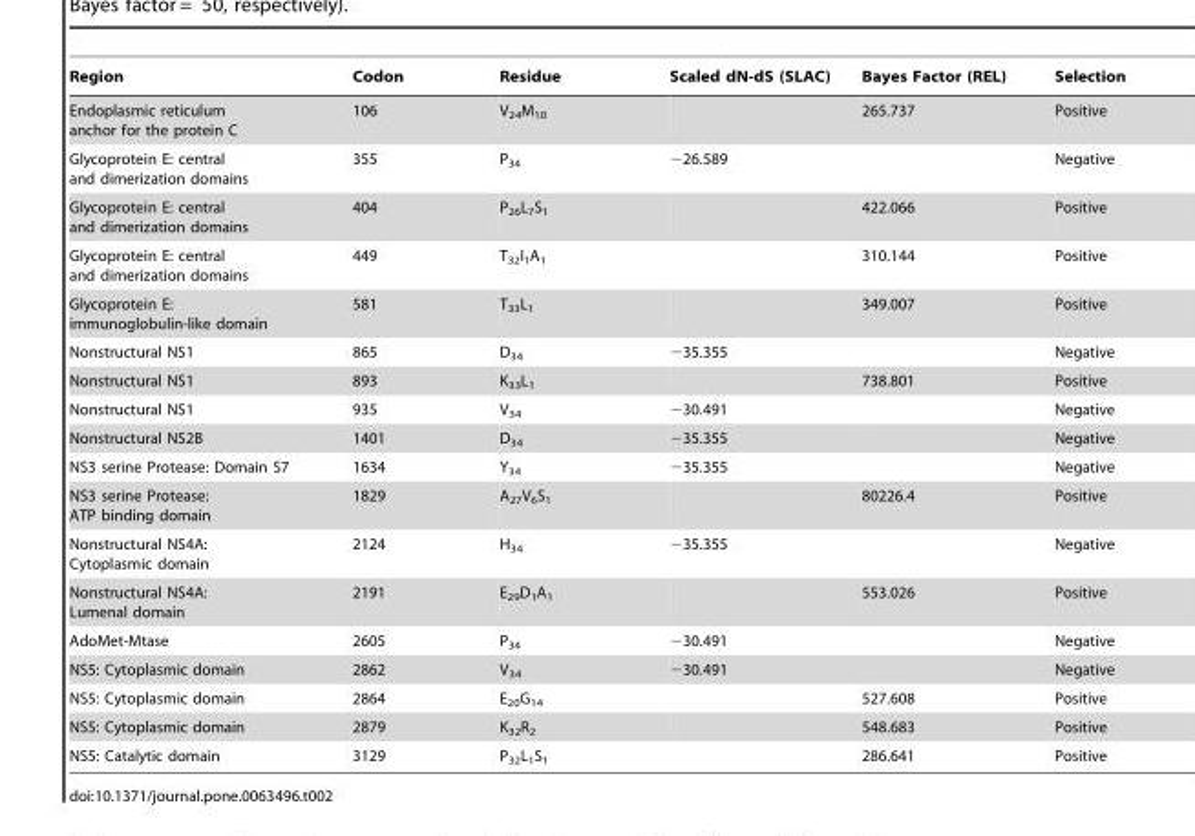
<table><thead><tr><td>Region</td><td>Codon</td><td>Residue</td><td>Scaled dN-dS (SLAC)</td><td>Bayes Factor (REL)</td><td>Selection</td></tr></thead><tbody><tr><td>Endoplasmic reticulum anchor for the protein C</td><td>106</td><td>V<sub>24</sub>M<sub>10</sub></td><td></td><td>265.737</td><td>Positive</td></tr><tr><td>Glycoprotein E: central and dimerization domains</td><td>355</td><td>P<sub>34</sub></td><td>−26.589</td><td></td><td>Negative</td></tr><tr><td>Glycoprotein E: central and dimerization domains</td><td>404</td><td>P<sub>26</sub>L<sub>7</sub>S<sub>1</sub></td><td></td><td>422.066</td><td>Positive</td></tr><tr><td>Glycoprotein E: central and dimerization domains</td><td>449</td><td>T<sub>32</sub>I<sub>1</sub>A<sub>1</sub></td><td></td><td>310.144</td><td>Positive</td></tr><tr><td>Glycoprotein E: immunoglobulin-like domain</td><td>581</td><td>T<sub>33</sub>L<sub>1</sub></td><td></td><td>349.007</td><td>Positive</td></tr><tr><td>Nonstructural NS1</td><td>865</td><td>D<sub>34</sub></td><td>−35.355</td><td></td><td>Negative</td></tr><tr><td>Nonstructural NS1</td><td>893</td><td>K<sub>33</sub>L<sub>1</sub></td><td></td><td>738.801</td><td>Positive</td></tr><tr><td>Nonstructural NS1</td><td>935</td><td>V<sub>34</sub></td><td>−30.491</td><td></td><td>Negative</td></tr><tr><td>Nonstructural NS2B</td><td>1401</td><td>D<sub>34</sub></td><td>−35.355</td><td></td><td>Negative</td></tr><tr><td>NS3 serine Protease: Domain S7</td><td>1634</td><td>Y<sub>34</sub></td><td>−35.355</td><td></td><td>Negative</td></tr><tr><td>NS3 serine Protease: ATP binding domain</td><td>1829</td><td>A<sub>27</sub>V<sub>6</sub>S<sub>1</sub></td><td></td><td>80226.4</td><td>Positive</td></tr><tr><td>Nonstructural NS4A: Cytoplasmic domain</td><td>2124</td><td>H<sub>34</sub></td><td>−35.355</td><td></td><td>Negative</td></tr><tr><td>Nonstructural NS4A: Lumenal domain</td><td>2191</td><td>E<sub>29</sub>D<sub>1</sub>A<sub>1</sub></td><td></td><td>553.026</td><td>Positive</td></tr><tr><td>AdoMet-Mtase</td><td>2605</td><td>P<sub>34</sub></td><td>−30.491</td><td></td><td>Negative</td></tr><tr><td>NS5: Cytoplasmic domain</td><td>2862</td><td>V<sub>34</sub></td><td>−30.491</td><td></td><td>Negative</td></tr><tr><td>NS5: Cytoplasmic domain</td><td>2864</td><td>E<sub>20</sub>G<sub>14</sub></td><td></td><td>527.608</td><td>Positive</td></tr><tr><td>NS5: Cytoplasmic domain</td><td>2879</td><td>K<sub>32</sub>R<sub>2</sub></td><td></td><td>548.683</td><td>Positive</td></tr><tr><td>NS5: Catalytic domain</td><td>3129</td><td>P<sub>32</sub>L<sub>1</sub>S<sub>1</sub></td><td></td><td>286.641</td><td>Positive</td></tr></tbody></table>